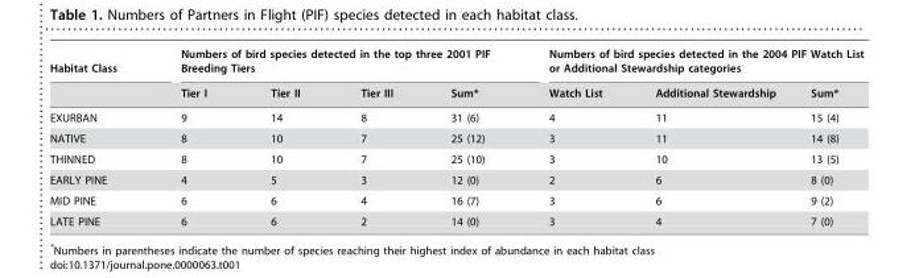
<table><thead><tr><td rowspan="2">Habitat Class</td><td colspan="4">Numbers of bird species detected in the top three 2001 PIF Breeding Tiers</td><td colspan="3">Numbers of bird species detected in the 2004 PIF Watch List or Additional Stewardship categories</td></tr><tr><td>Tier I</td><td>Tier II</td><td>Tier III</td><td>Sum*</td><td>Watch List</td><td>Additional Stewardship</td><td>Sum*</td></tr></thead><tbody><tr><td>EXURBAN</td><td>9</td><td>14</td><td>8</td><td>31 (6)</td><td>4</td><td>11</td><td>15 (4)</td></tr><tr><td>NATIVE</td><td>8</td><td>10</td><td>7</td><td>25 (12)</td><td>3</td><td>11</td><td>14 (8)</td></tr><tr><td>THINNED</td><td>8</td><td>10</td><td>7</td><td>25 (10)</td><td>3</td><td>10</td><td>13 (5)</td></tr><tr><td>EARLY PINE</td><td>4</td><td>5</td><td>3</td><td>12 (0)</td><td>2</td><td>6</td><td>8 (0)</td></tr><tr><td>MID PINE</td><td>6</td><td>6</td><td>4</td><td>16 (7)</td><td>3</td><td>6</td><td>9 (2)</td></tr><tr><td>LATE PINE</td><td>6</td><td>6</td><td>2</td><td>14 (0)</td><td>3</td><td>4</td><td>7 (0)</td></tr></tbody></table>